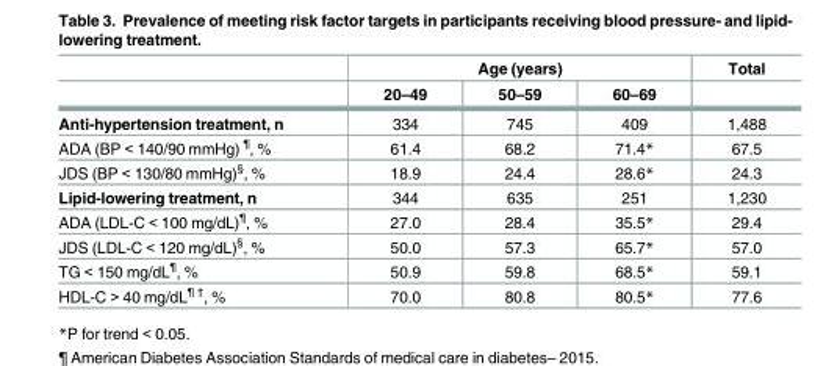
<table><thead><tr><td rowspan="2"></td><td colspan="3">Age (years)</td><td rowspan="2">Total</td></tr><tr><td>20–49</td><td>50–59</td><td>60–69</td></tr></thead><tbody><tr><td>Anti-hypertension treatment, n</td><td>334</td><td>745</td><td>409</td><td>1,488</td></tr><tr><td>ADA (BP &lt; 140/90 mmHg) <sup>¶</sup>, %</td><td>61.4</td><td>68.2</td><td>71.4*</td><td>67.5</td></tr><tr><td>JDS (BP &lt; 130/80 mmHg)<sup>§</sup>, %</td><td>18.9</td><td>24.4</td><td>28.6*</td><td>24.3</td></tr><tr><td>Lipid-lowering treatment, n</td><td>344</td><td>635</td><td>251</td><td>1,230</td></tr><tr><td>ADA (LDL-C &lt; 100 mg/dL)<sup>¶</sup>, %</td><td>27.0</td><td>28.4</td><td>35.5*</td><td>29.4</td></tr><tr><td>JDS (LDL-C &lt; 120 mg/dL)<sup>§</sup>, %</td><td>50.0</td><td>57.3</td><td>65.7*</td><td>57.0</td></tr><tr><td>TG &lt; 150 mg/dL<sup>¶</sup>, %</td><td>50.9</td><td>59.8</td><td>68.5*</td><td>59.1</td></tr><tr><td>HDL-C &gt; 40 mg/dL<sup>¶ †</sup>, %</td><td>70.0</td><td>80.8</td><td>80.5*</td><td>77.6</td></tr></tbody></table>